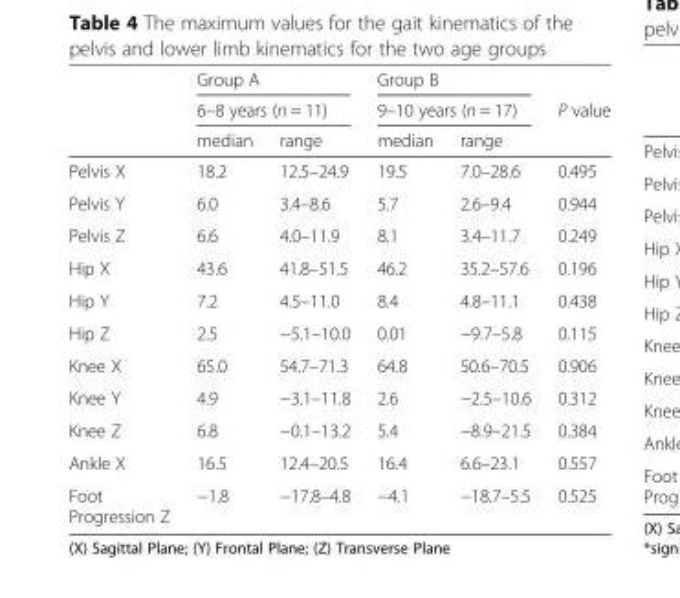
<table><thead><tr><td rowspan="3"></td><td rowspan="2" colspan="2">Group A 6–8 years (n = 11)</td><td rowspan="2" colspan="2">Group B 9–10 years (n = 17)</td><td rowspan="3">P value</td></tr><tr></tr><tr><td>median</td><td>range</td><td>median</td><td>range</td></tr></thead><tbody><tr><td>Pelvis X</td><td>18.2</td><td>12.5–24.9</td><td>19.5</td><td>7.0–28.6</td><td>0.495</td></tr><tr><td>Pelvis Y</td><td>6.0</td><td>3.4–8.6</td><td>5.7</td><td>2.6–9.4</td><td>0.944</td></tr><tr><td>Pelvis Z</td><td>6.6</td><td>4.0–11.9</td><td>8.1</td><td>3.4–11.7</td><td>0.249</td></tr><tr><td>Hip X</td><td>43.6</td><td>41.8–51.5</td><td>46.2</td><td>35.2–57.6</td><td>0.196</td></tr><tr><td>Hip Y</td><td>7.2</td><td>4.5–11.0</td><td>8.4</td><td>4.8–11.1</td><td>0.438</td></tr><tr><td>Hip Z</td><td>2.5</td><td>−5.1–10.0</td><td>0.01</td><td>−9.7–5.8</td><td>0.115</td></tr><tr><td>Knee X</td><td>65.0</td><td>54.7–71.3</td><td>64.8</td><td>50.6–70.5</td><td>0.906</td></tr><tr><td>Knee Y</td><td>4.9</td><td>−3.1–11.8</td><td>2.6</td><td>−2.5–10.6</td><td>0.312</td></tr><tr><td>Knee Z</td><td>6.8</td><td>−0.1–13.2</td><td>5.4</td><td>−8.9–21.5</td><td>0.384</td></tr><tr><td>Ankle X</td><td>16.5</td><td>12.4–20.5</td><td>16.4</td><td>6.6–23.1</td><td>0.557</td></tr><tr><td>Foot Progression Z</td><td>−1.8</td><td>−17.8–4.8</td><td>−4.1</td><td>−18.7–5.5</td><td>0.525</td></tr></tbody></table>